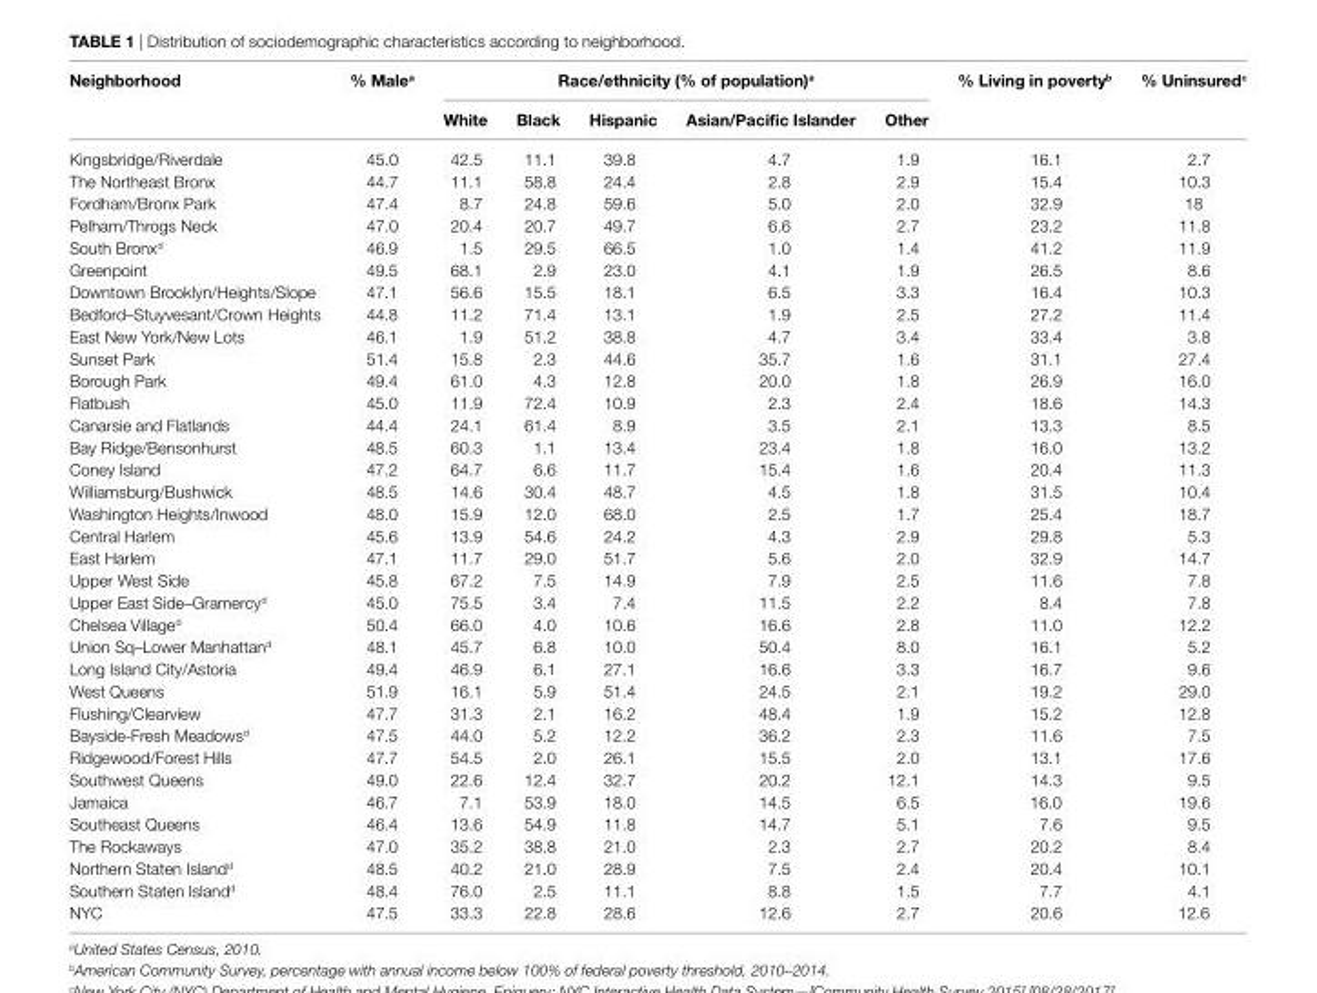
<table><thead><tr><td rowspan="2">neighborhood</td><td rowspan="2">% Male<sup>a</sup></td><td colspan="5">race/ethnicity (% of population)<sup>a</sup></td><td rowspan="2">% living in poverty<sup>b</sup></td><td rowspan="2">% Uninsured<sup>c</sup></td></tr><tr><td>White</td><td>Black</td><td>hispanic</td><td>asian/Pacific islander</td><td>Other</td></tr></thead><tbody><tr><td>Kingsbridge/Riverdale</td><td>45.0</td><td>42.5</td><td>11.1</td><td>39.8</td><td>4.7</td><td>1.9</td><td>16.1</td><td>2.7</td></tr><tr><td>The Northeast Bronx</td><td>44.7</td><td>11.1</td><td>58.8</td><td>24.4</td><td>2.8</td><td>2.9</td><td>15.4</td><td>10.3</td></tr><tr><td>Fordham/Bronx Park</td><td>47.4</td><td>8.7</td><td>24.8</td><td>59.6</td><td>5.0</td><td>2.0</td><td>32.9</td><td>18</td></tr><tr><td>Pelham/Throgs Neck</td><td>47.0</td><td>20.4</td><td>20.7</td><td>49.7</td><td>6.6</td><td>2.7</td><td>23.2</td><td>11.8</td></tr><tr><td>South Bronx<sup>d</sup></td><td>46.9</td><td>1.5</td><td>29.5</td><td>66.5</td><td>1.0</td><td>1.4</td><td>41.2</td><td>11.9</td></tr><tr><td>Greenpoint</td><td>49.5</td><td>68.1</td><td>2.9</td><td>23.0</td><td>4.1</td><td>1.9</td><td>26.5</td><td>8.6</td></tr><tr><td>Downtown Brooklyn/Heights/Slope</td><td>47.1</td><td>56.6</td><td>15.5</td><td>18.1</td><td>6.5</td><td>3.3</td><td>16.4</td><td>10.3</td></tr><tr><td>Bedford–Stuyvesant/Crown Heights</td><td>44.8</td><td>11.2</td><td>71.4</td><td>13.1</td><td>1.9</td><td>2.5</td><td>27.2</td><td>11.4</td></tr><tr><td>East New York/New Lots</td><td>46.1</td><td>1.9</td><td>51.2</td><td>38.8</td><td>4.7</td><td>3.4</td><td>33.4</td><td>3.8</td></tr><tr><td>Sunset Park</td><td>51.4</td><td>15.8</td><td>2.3</td><td>44.6</td><td>35.7</td><td>1.6</td><td>31.1</td><td>27.4</td></tr><tr><td>Borough Park</td><td>49.4</td><td>61.0</td><td>4.3</td><td>12.8</td><td>20.0</td><td>1.8</td><td>26.9</td><td>16.0</td></tr><tr><td>Flatbush</td><td>45.0</td><td>11.9</td><td>72.4</td><td>10.9</td><td>2.3</td><td>2.4</td><td>18.6</td><td>14.3</td></tr><tr><td>Canarsie and Flatlands</td><td>44.4</td><td>24.1</td><td>61.4</td><td>8.9</td><td>3.5</td><td>2.1</td><td>13.3</td><td>8.5</td></tr><tr><td>Bay Ridge/Bensonhurst</td><td>48.5</td><td>60.3</td><td>1.1</td><td>13.4</td><td>23.4</td><td>1.8</td><td>16.0</td><td>13.2</td></tr><tr><td>Coney Island</td><td>47.2</td><td>64.7</td><td>6.6</td><td>11.7</td><td>15.4</td><td>1.6</td><td>20.4</td><td>11.3</td></tr><tr><td>Williamsburg/Bushwick</td><td>48.5</td><td>14.6</td><td>30.4</td><td>48.7</td><td>4.5</td><td>1.8</td><td>31.5</td><td>10.4</td></tr><tr><td>Washington Heights/Inwood</td><td>48.0</td><td>15.9</td><td>12.0</td><td>68.0</td><td>2.5</td><td>1.7</td><td>25.4</td><td>18.7</td></tr><tr><td>Central Harlem</td><td>45.6</td><td>13.9</td><td>54.6</td><td>24.2</td><td>4.3</td><td>2.9</td><td>29.8</td><td>5.3</td></tr><tr><td>East Harlem</td><td>47.1</td><td>11.7</td><td>29.0</td><td>51.7</td><td>5.6</td><td>2.0</td><td>32.9</td><td>14.7</td></tr><tr><td>Upper West Side</td><td>45.8</td><td>67.2</td><td>7.5</td><td>14.9</td><td>7.9</td><td>2.5</td><td>11.6</td><td>7.8</td></tr><tr><td>Upper East Side–Gramercy<sup>d</sup></td><td>45.0</td><td>75.5</td><td>3.4</td><td>7.4</td><td>11.5</td><td>2.2</td><td>8.4</td><td>7.8</td></tr><tr><td>Chelsea Village<sup>d</sup></td><td>50.4</td><td>66.0</td><td>4.0</td><td>10.6</td><td>16.6</td><td>2.8</td><td>11.0</td><td>12.2</td></tr><tr><td>Union Sq–Lower Manhattan<sup>d</sup></td><td>48.1</td><td>45.7</td><td>6.8</td><td>10.0</td><td>50.4</td><td>8.0</td><td>16.1</td><td>5.2</td></tr><tr><td>Long Island City/Astoria</td><td>49.4</td><td>46.9</td><td>6.1</td><td>27.1</td><td>16.6</td><td>3.3</td><td>16.7</td><td>9.6</td></tr><tr><td>West Queens</td><td>51.9</td><td>16.1</td><td>5.9</td><td>51.4</td><td>24.5</td><td>2.1</td><td>19.2</td><td>29.0</td></tr><tr><td>Flushing/Clearview</td><td>47.7</td><td>31.3</td><td>2.1</td><td>16.2</td><td>48.4</td><td>1.9</td><td>15.2</td><td>12.8</td></tr><tr><td>Bayside-Fresh Meadows<sup>d</sup></td><td>47.5</td><td>44.0</td><td>5.2</td><td>12.2</td><td>36.2</td><td>2.3</td><td>11.6</td><td>7.5</td></tr><tr><td>Ridgewood/Forest Hills</td><td>47.7</td><td>54.5</td><td>2.0</td><td>26.1</td><td>15.5</td><td>2.0</td><td>13.1</td><td>17.6</td></tr><tr><td>Southwest Queens</td><td>49.0</td><td>22.6</td><td>12.4</td><td>32.7</td><td>20.2</td><td>12.1</td><td>14.3</td><td>9.5</td></tr><tr><td>Jamaica</td><td>46.7</td><td>7.1</td><td>53.9</td><td>18.0</td><td>14.5</td><td>6.5</td><td>16.0</td><td>19.6</td></tr><tr><td>Southeast Queens</td><td>46.4</td><td>13.6</td><td>54.9</td><td>11.8</td><td>14.7</td><td>5.1</td><td>7.6</td><td>9.5</td></tr><tr><td>The Rockaways</td><td>47.0</td><td>35.2</td><td>38.8</td><td>21.0</td><td>2.3</td><td>2.7</td><td>20.2</td><td>8.4</td></tr><tr><td>Northern Staten Island<sup>d</sup></td><td>48.5</td><td>40.2</td><td>21.0</td><td>28.9</td><td>7.5</td><td>2.4</td><td>20.4</td><td>10.1</td></tr><tr><td>Southern Staten Island<sup>d</sup></td><td>48.4</td><td>76.0</td><td>2.5</td><td>11.1</td><td>8.8</td><td>1.5</td><td>7.7</td><td>4.1</td></tr><tr><td>NYC</td><td>47.5</td><td>33.3</td><td>22.8</td><td>28.6</td><td>12.6</td><td>2.7</td><td>20.6</td><td>12.6</td></tr></tbody></table>